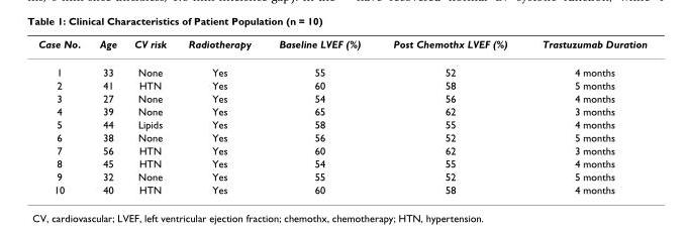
<table><thead><tr><td>Case No.</td><td>Age</td><td>CV risk</td><td>Radiotherapy</td><td>Baseline LVEF (%)</td><td>Post Chemothx LVEF (%)</td><td>Trastuzumab Duration</td></tr></thead><tbody><tr><td>1</td><td>33</td><td>None</td><td>Yes</td><td>55</td><td>52</td><td>4 months</td></tr><tr><td>2</td><td>41</td><td>HTN</td><td>Yes</td><td>60</td><td>58</td><td>5 months</td></tr><tr><td>3</td><td>27</td><td>None</td><td>Yes</td><td>54</td><td>56</td><td>4 months</td></tr><tr><td>4</td><td>39</td><td>None</td><td>Yes</td><td>65</td><td>62</td><td>3 months</td></tr><tr><td>5</td><td>44</td><td>Lipids</td><td>Yes</td><td>58</td><td>55</td><td>4 months</td></tr><tr><td>6</td><td>38</td><td>None</td><td>Yes</td><td>56</td><td>52</td><td>5 months</td></tr><tr><td>7</td><td>56</td><td>HTN</td><td>Yes</td><td>60</td><td>62</td><td>3 months</td></tr><tr><td>8</td><td>45</td><td>HTN</td><td>Yes</td><td>54</td><td>55</td><td>4 months</td></tr><tr><td>9</td><td>32</td><td>None</td><td>Yes</td><td>55</td><td>52</td><td>5 months</td></tr><tr><td>10</td><td>40</td><td>HTN</td><td>Yes</td><td>60</td><td>58</td><td>4 months</td></tr></tbody></table>